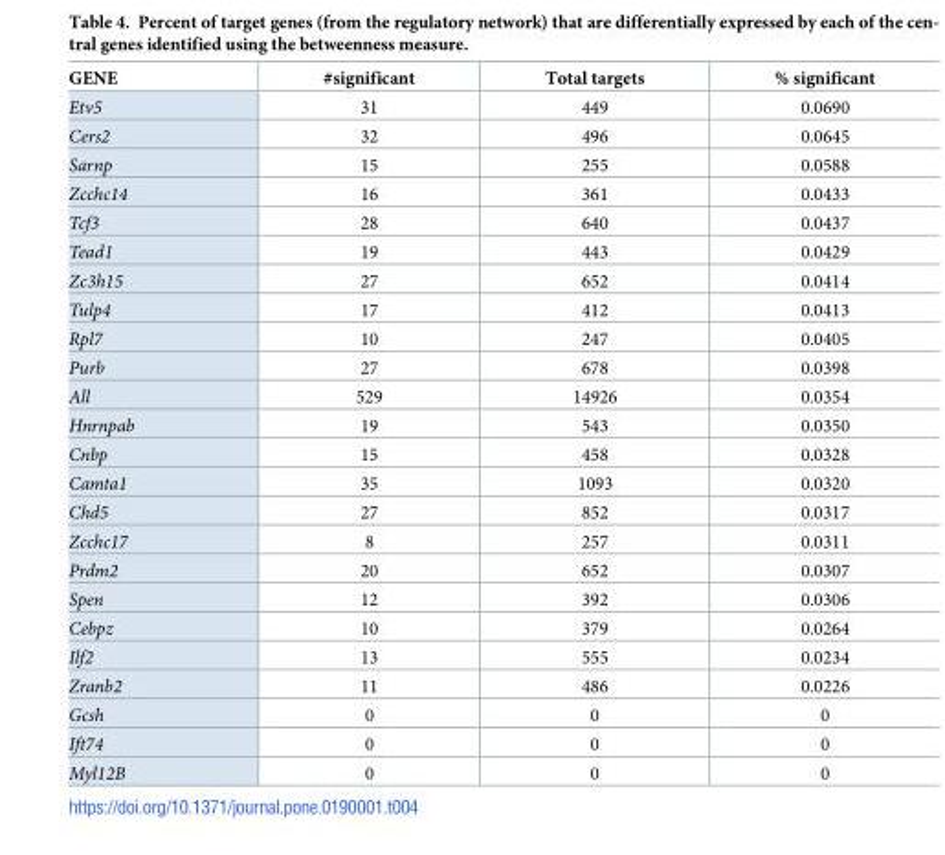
<table><thead><tr><td>GENE</td><td>#significant</td><td>Total targets</td><td>% significant</td></tr></thead><tbody><tr><td>Etv5</td><td>31</td><td>449</td><td>0.0690</td></tr><tr><td>Cers2</td><td>32</td><td>496</td><td>0.0645</td></tr><tr><td>Sarnp</td><td>15</td><td>255</td><td>0.0588</td></tr><tr><td>Zcchc14</td><td>16</td><td>361</td><td>0.0433</td></tr><tr><td>Tcf3</td><td>28</td><td>640</td><td>0.0437</td></tr><tr><td>Tead1</td><td>19</td><td>443</td><td>0.0429</td></tr><tr><td>Zc3h15</td><td>27</td><td>652</td><td>0.0414</td></tr><tr><td>Tulp4</td><td>17</td><td>412</td><td>0.0413</td></tr><tr><td>Rpl7</td><td>10</td><td>247</td><td>0.0405</td></tr><tr><td>Purb</td><td>27</td><td>678</td><td>0.0398</td></tr><tr><td>All</td><td>529</td><td>14926</td><td>0.0354</td></tr><tr><td>Hnrnpab</td><td>19</td><td>543</td><td>0.0350</td></tr><tr><td>Cnbp</td><td>15</td><td>458</td><td>0.0328</td></tr><tr><td>Camta1</td><td>35</td><td>1093</td><td>0.0320</td></tr><tr><td>Chd5</td><td>27</td><td>852</td><td>0.0317</td></tr><tr><td>Zcchc17</td><td>8</td><td>257</td><td>0.0311</td></tr><tr><td>Prdm2</td><td>20</td><td>652</td><td>0.0307</td></tr><tr><td>Spen</td><td>12</td><td>392</td><td>0.0306</td></tr><tr><td>Cebpz</td><td>10</td><td>379</td><td>0.0264</td></tr><tr><td>Ilf2</td><td>13</td><td>555</td><td>0.0234</td></tr><tr><td>Zranb2</td><td>11</td><td>486</td><td>0.0226</td></tr><tr><td>Gcsh</td><td>0</td><td>0</td><td>0</td></tr><tr><td>Ift74</td><td>0</td><td>0</td><td>0</td></tr><tr><td>Myl12B</td><td>0</td><td>0</td><td>0</td></tr></tbody></table>